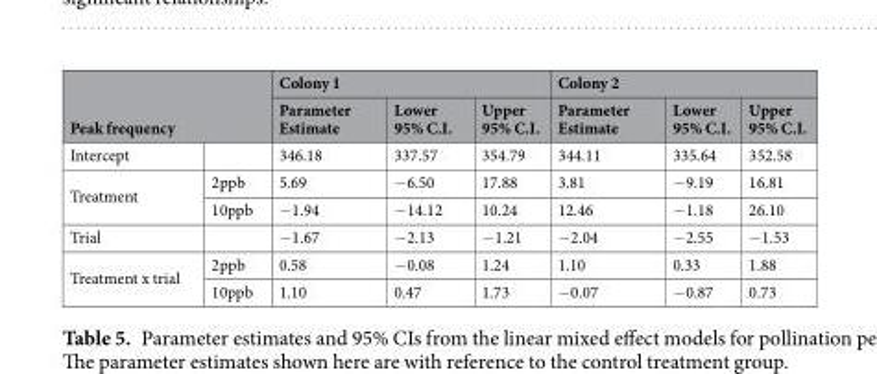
<table><thead><tr><td rowspan="2" colspan="2">Peak frequency</td><td colspan="3">Colony 1</td><td colspan="3">Colony 2</td></tr><tr><td rowspan="2">Parameter Estimate 346.18</td><td rowspan="2">Lower 95% C.I. 337.57</td><td rowspan="2">Upper 95% C.I. 354.79</td><td rowspan="2">Parameter Estimate 344.11</td><td rowspan="2">Lower 95% C.I. 335.64</td><td rowspan="2">Upper 95% C.I. 352.58</td></tr><tr><td>Intercept</td><td></td></tr></thead><tbody><tr><td rowspan="2">Treatment</td><td>2ppb</td><td>5.69</td><td>−6.50</td><td>17.88</td><td>3.81</td><td>−9.19</td><td>16.81</td></tr><tr><td>10ppb</td><td>−1.94</td><td>−14.12</td><td>10.24</td><td>12.46</td><td>−1.18</td><td>26.10</td></tr><tr><td>Trial</td><td></td><td>−1.67</td><td>−2.13</td><td>−1.21</td><td>−2.04</td><td>−2.55</td><td>−1.53</td></tr><tr><td rowspan="2">Treatment x trial</td><td>2ppb</td><td>0.58</td><td>−0.08</td><td>1.24</td><td>1.10</td><td>0.33</td><td>1.88</td></tr><tr><td>10ppb</td><td>1.10</td><td>0.47</td><td>1.73</td><td>−0.07</td><td>−0.87</td><td>0.73</td></tr></tbody></table>